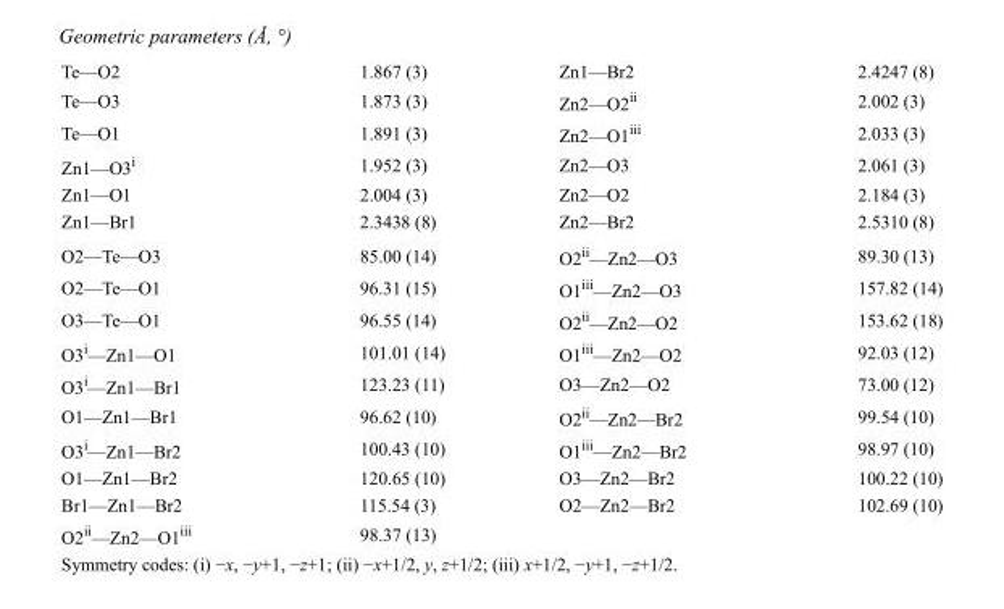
<table><tbody><tr><td>Te—O2</td><td>1.867 (3)</td><td>Zn1—Br2</td><td>2.4247 (8)</td></tr><tr><td>Te—O3</td><td>1.873 (3)</td><td>Zn2—O2<sup>ii</sup></td><td>2.002 (3)</td></tr><tr><td>Te—O1</td><td>1.891 (3)</td><td>Zn2—O1<sup>iii</sup></td><td>2.033 (3)</td></tr><tr><td>Zn1—O3<sup>i</sup></td><td>1.952 (3)</td><td>Zn2—O3</td><td>2.061 (3)</td></tr><tr><td>Zn1—O1</td><td>2.004 (3)</td><td>Zn2—O2</td><td>2.184 (3)</td></tr><tr><td>Zn1—Br1</td><td>2.3438 (8)</td><td>Zn2—Br2</td><td>2.5310 (8)</td></tr><tr><td>O2—Te—O3</td><td>85.00 (14)</td><td>O2<sup>ii</sup>—Zn2—O3</td><td>89.30 (13)</td></tr><tr><td>O2—Te—O1</td><td>96.31 (15)</td><td>O1<sup>iii</sup>—Zn2—O3</td><td>157.82 (14)</td></tr><tr><td>O3—Te—O1</td><td>96.55 (14)</td><td>O2<sup>ii</sup>—Zn2—O2</td><td>153.62 (18)</td></tr><tr><td>O3<sup>i</sup>—Zn1—O1</td><td>101.01 (14)</td><td>O1<sup>iii</sup>—Zn2—O2</td><td>92.03 (12)</td></tr><tr><td>O3<sup>i</sup>—Zn1—Br1</td><td>123.23 (11)</td><td>O3—Zn2—O2</td><td>73.00 (12)</td></tr><tr><td>O1—Zn1—Br1</td><td>96.62 (10)</td><td>O2<sup>ii</sup>—Zn2—Br2</td><td>99.54 (10)</td></tr><tr><td>O3<sup>i</sup>—Zn1—Br2</td><td>100.43 (10)</td><td>O1<sup>iii</sup>—Zn2—Br2</td><td>98.97 (10)</td></tr><tr><td>O1—Zn1—Br2</td><td>120.65 (10)</td><td>O3—Zn2—Br2</td><td>100.22 (10)</td></tr><tr><td>Br1—Zn1—Br2</td><td>115.54 (3)</td><td>O2—Zn2—Br2</td><td>102.69 (10)</td></tr><tr><td>O2<sup>ii</sup>—Zn2—O1<sup>iii</sup></td><td>98.37 (13)</td><td></td><td></td></tr></tbody></table>